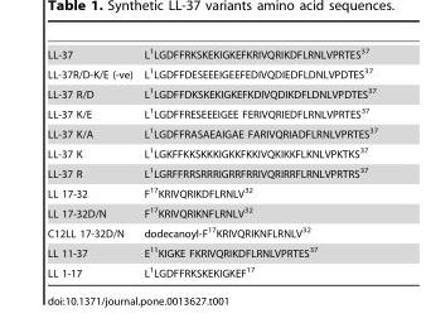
<table><tbody><tr><td>LL-37</td><td>L<sup>1</sup>LGDFFRKSKEKIGKEFKRIVQRIKDFLRNLVPRTES<sup>37</sup></td></tr><tr><td>LL-37R/D-K/E (-ve)</td><td>L<sup>1</sup>LGDFFDESEEEIGEEFEDIVQDIEDFLDNLVPDTES<sup>37</sup></td></tr><tr><td>LL-37 R/D</td><td>L<sup>1</sup>LGDFFDKSKEKIGKEFKDIVQDIKDFLDNLVPDTES<sup>37</sup></td></tr><tr><td>LL-37 K/E</td><td>L<sup>1</sup>LGDFFRESEEEIGEE FERIVQRIEDFLRNLVPRTES<sup>37</sup></td></tr><tr><td>LL-37 K/A</td><td>L<sup>1</sup>LGDFFRASAEAIGAE FARIVQRIADFLRNLVPRTES<sup>37</sup></td></tr><tr><td>LL-37 K</td><td>L<sup>1</sup>LGKFFKKSKKKIGKKFKKIVQKIKKFLKNLVPKTKS<sup>37</sup></td></tr><tr><td>LL-37 R</td><td>L<sup>1</sup>LGRFFRRSRRRIGRRFRRIVQRIRRFLRNLVPRTRS<sup>37</sup></td></tr><tr><td>LL 17-32</td><td>F<sup>17</sup>KRIVQRIKDFLRNLV<sup>32</sup></td></tr><tr><td>LL 17-32D/N</td><td>F<sup>17</sup>KRIVQRIKNFLRNLV<sup>32</sup></td></tr><tr><td>C12LL 17-32D/N</td><td>dodecanoyl-F<sup>17</sup>KRIVQRIKNFLRNLV<sup>32</sup></td></tr><tr><td>LL 11-37</td><td>E<sup>11</sup>KIGKE FKRIVQRIKDFLRNLVPRTES<sup>37</sup></td></tr><tr><td>LL 1-17</td><td>L<sup>1</sup>LGDFFRKSKEKIGKEF<sup>17</sup></td></tr></tbody></table>